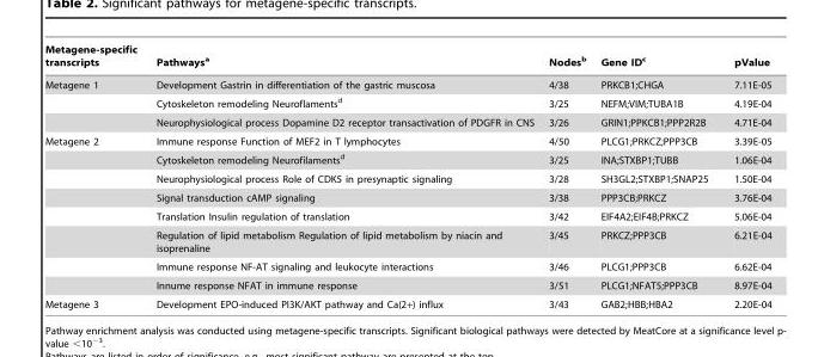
<table><thead><tr><td>Metagene-specific transcripts</td><td>Pathways<sup>a</sup></td><td>Nodes<sup>b</sup></td><td>Gene ID<sup>c</sup></td><td>pValue</td></tr></thead><tbody><tr><td rowspan="3">Metagene 1</td><td>Development Gastrin in differentiation of the gastric muscosa</td><td>4/38</td><td>PRKCB1;CHGA</td><td>7.11E-05</td></tr><tr><td>Cytoskeleton remodeling Neuroflaments<sup>d</sup></td><td>3/25</td><td>NEFM;VIM;TUBA1B</td><td>4.19E-04</td></tr><tr><td>Neurophysiological process Dopamine D2 receptor transactivation of PDGFR in CNS</td><td>3/26</td><td>GRIN1;PPKCB1;PPP2R2B</td><td>4.71E-04</td></tr><tr><td rowspan="8">Metagene 2</td><td>Immune response Function of MEF2 in T lymphocytes</td><td>4/50</td><td>PLCG1;PRKCZ;PPP3CB</td><td>3.39E-05</td></tr><tr><td>Cytoskeleton remodeling Neurofilaments<sup>d</sup></td><td>3/25</td><td>INA;STXBP1;TUBB</td><td>1.06E-04</td></tr><tr><td>Neurophysiological process Role of CDK5 in presynaptic signaling</td><td>3/28</td><td>SH3GL2;STXBP1;SNAP25</td><td>1.50E-04</td></tr><tr><td>Signal transduction cAMP signaling</td><td>3/38</td><td>PPP3CB;PRKCZ</td><td>3.76E-04</td></tr><tr><td>Translation Insulin regulation of translation</td><td>3/42</td><td>EIF4A2;EIF4B;PRKCZ</td><td>5.06E-04</td></tr><tr><td>Regulation of lipid metabolism Regulation of lipid metabolism by niacin and isoprenaline</td><td>3/45</td><td>PRKCZ;PPP3CB</td><td>6.21E-04</td></tr><tr><td>Immune response NF-AT signaling and leukocyte interactions</td><td>3/46</td><td>PLCG1;PPP3CB</td><td>6.62E-04</td></tr><tr><td>Innume response NFAT in immune response</td><td>3/51</td><td>PLCG1;NFAT5;PPP3CB</td><td>8.97E-04</td></tr><tr><td>Metagene 3</td><td>Development EPO-induced PI3K/AKT pathway and Ca(2+) influx</td><td>3/43</td><td>GAB2;HBB;HBA2</td><td>2.20E-04</td></tr></tbody></table>